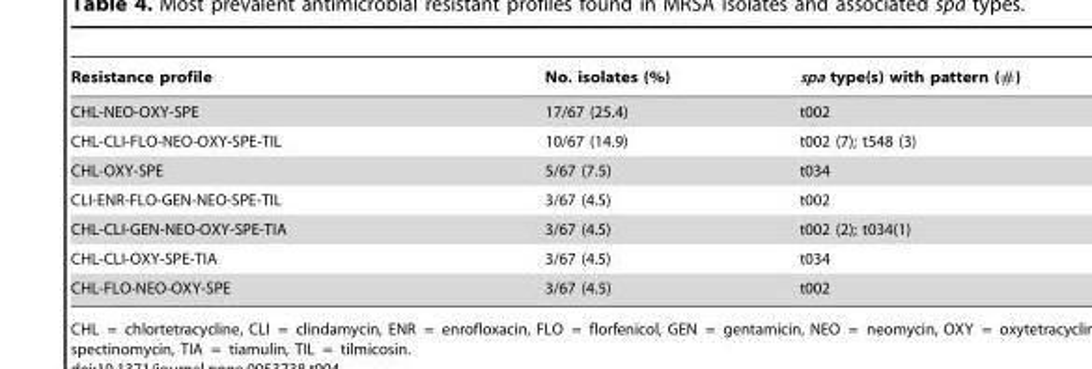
<table><thead><tr><td>Resistance profile</td><td>No. isolates (%)</td><td>spa type(s) with pattern (#)</td></tr></thead><tbody><tr><td>CHL-NEO-OXY-SPE</td><td>17/67 (25.4)</td><td>t002</td></tr><tr><td>CHL-CLI-FLO-NEO-OXY-SPE-TIL</td><td>10/67 (14.9)</td><td>t002 (7); t548 (3)</td></tr><tr><td>CHL-OXY-SPE</td><td>5/67 (7.5)</td><td>t034</td></tr><tr><td>CLI-ENR-FLO-GEN-NEO-SPE-TIL</td><td>3/67 (4.5)</td><td>t002</td></tr><tr><td>CHL-CLI-GEN-NEO-OXY-SPE-TIA</td><td>3/67 (4.5)</td><td>t002 (2); t034(1)</td></tr><tr><td>CHL-CLI-OXY-SPE-TIA</td><td>3/67 (4.5)</td><td>t034</td></tr><tr><td>CHL-FLO-NEO-OXY-SPE</td><td>3/67 (4.5)</td><td>t002</td></tr></tbody></table>